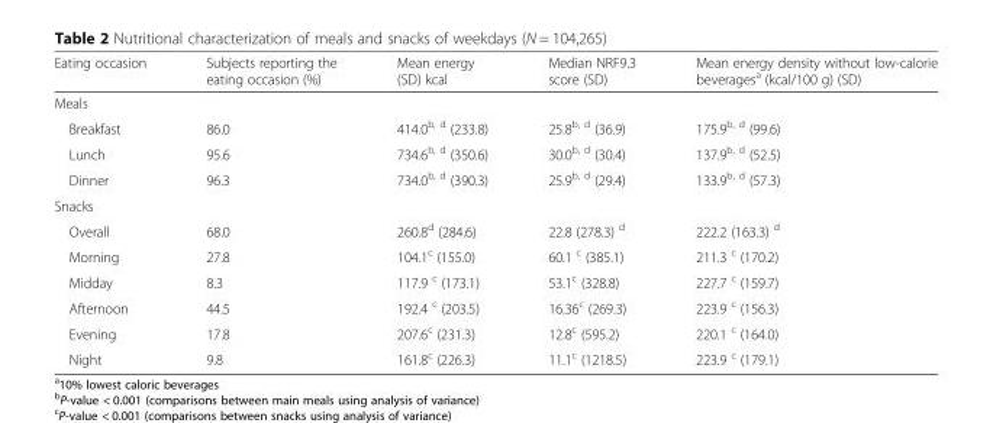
<table><thead><tr><td>Eating occasion</td><td>Subjects reporting the eating occasion (%)</td><td>Mean energy (SD) kcal</td><td>Median NRF9.3 score (SD)</td><td>Mean energy density without low-calorie beverages<sup>a</sup> (kcal/100 g) (SD)</td></tr></thead><tbody><tr><td colspan="5">Meals</td></tr><tr><td>Breakfast</td><td>86.0</td><td>414.0<sup>b, d</sup> (233.8)</td><td>25.8<sup>b, d</sup> (36.9)</td><td>175.9<sup>b, d</sup> (99.6)</td></tr><tr><td>Lunch</td><td>95.6</td><td>734.6<sup>b, d</sup> (350.6)</td><td>30.0<sup>b, d</sup> (30.4)</td><td>137.9<sup>b, d</sup> (52.5)</td></tr><tr><td>Dinner</td><td>96.3</td><td>734.0<sup>b, d</sup> (390.3)</td><td>25.9<sup>b, d</sup> (29.4)</td><td>133.9<sup>b, d</sup> (57.3)</td></tr><tr><td colspan="5">Snacks</td></tr><tr><td>Overall</td><td>68.0</td><td>260.8<sup>d</sup> (284.6)</td><td>22.8 (278.3) <sup>d</sup></td><td>222.2 (163.3) <sup>d</sup></td></tr><tr><td>Morning</td><td>27.8</td><td>104.1<sup>c</sup> (155.0)</td><td>60.1 <sup>c</sup> (385.1)</td><td>211.3 <sup>c</sup> (170.2)</td></tr><tr><td>Midday</td><td>8.3</td><td>117.9 <sup>c</sup> (173.1)</td><td>53.1<sup>c</sup> (328.8)</td><td>227.7 <sup>c</sup> (159.7)</td></tr><tr><td>Afternoon</td><td>44.5</td><td>192.4 <sup>c</sup> (203.5)</td><td>16.36<sup>c</sup> (269.3)</td><td>223.9 <sup>c</sup> (156.3)</td></tr><tr><td>Evening</td><td>17.8</td><td>207.6<sup>c</sup> (231.3)</td><td>12.8<sup>c</sup> (595.2)</td><td>220.1 <sup>c</sup> (164.0)</td></tr><tr><td>Night</td><td>9.8</td><td>161.8<sup>c</sup> (226.3)</td><td>11.1<sup>c</sup> (1218.5)</td><td>223.9 <sup>c</sup> (179.1)</td></tr></tbody></table>